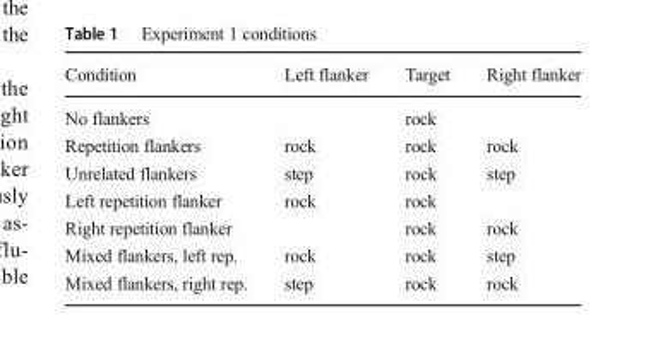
<table><thead><tr><td>Condition</td><td>Left flanker</td><td>Target</td><td>Right flanker</td></tr></thead><tbody><tr><td>No flankers</td><td></td><td>rock</td><td></td></tr><tr><td>Repetition flankers</td><td>rock</td><td>rock</td><td>rock</td></tr><tr><td>Unrelated flankers</td><td>step</td><td>rock</td><td>step</td></tr><tr><td>Left repetition flanker</td><td>rock</td><td>rock</td><td></td></tr><tr><td>Right repetition flanker</td><td></td><td>rock</td><td>rock</td></tr><tr><td>Mixed flankers, left rep.</td><td>rock</td><td>rock</td><td>step</td></tr><tr><td>Mixed flankers, right rep.</td><td>step</td><td>rock</td><td>rock</td></tr></tbody></table>